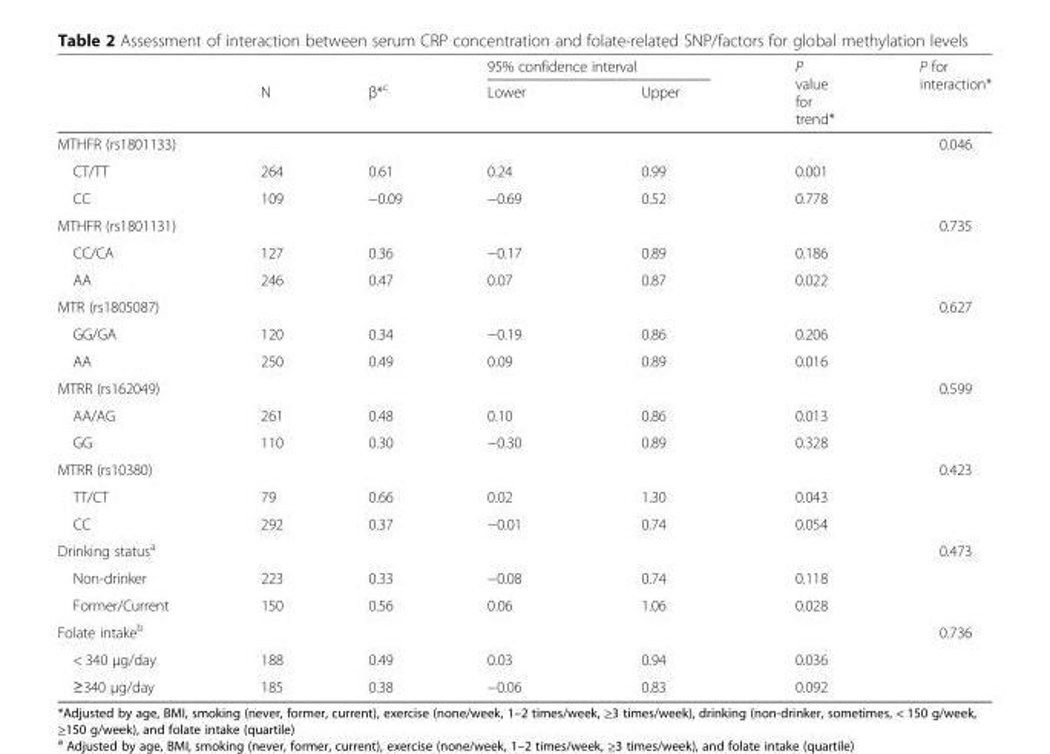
<table><thead><tr><td rowspan="2"></td><td rowspan="2">N</td><td rowspan="2">β*<sup>c</sup></td><td colspan="2">95% confidence interval</td><td rowspan="2">P value for trend*</td><td rowspan="2">P for interaction*</td></tr><tr><td>Lower</td><td>Upper</td></tr></thead><tbody><tr><td>MTHFR (rs1801133)</td><td></td><td></td><td></td><td></td><td></td><td>0.046</td></tr><tr><td>CT/TT</td><td>264</td><td>0.61</td><td>0.24</td><td>0.99</td><td>0.001</td><td></td></tr><tr><td>CC</td><td>109</td><td>−0.09</td><td>−0.69</td><td>0.52</td><td>0.778</td><td></td></tr><tr><td>MTHFR (rs1801131)</td><td></td><td></td><td></td><td></td><td></td><td>0.735</td></tr><tr><td>CC/CA</td><td>127</td><td>0.36</td><td>−0.17</td><td>0.89</td><td>0.186</td><td></td></tr><tr><td>AA</td><td>246</td><td>0.47</td><td>0.07</td><td>0.87</td><td>0.022</td><td></td></tr><tr><td>MTR (rs1805087)</td><td></td><td></td><td></td><td></td><td></td><td>0.627</td></tr><tr><td>GG/GA</td><td>120</td><td>0.34</td><td>−0.19</td><td>0.86</td><td>0.206</td><td></td></tr><tr><td>AA</td><td>250</td><td>0.49</td><td>0.09</td><td>0.89</td><td>0.016</td><td></td></tr><tr><td>MTRR (rs162049)</td><td></td><td></td><td></td><td></td><td></td><td>0.599</td></tr><tr><td>AA/AG</td><td>261</td><td>0.48</td><td>0.10</td><td>0.86</td><td>0.013</td><td></td></tr><tr><td>GG</td><td>110</td><td>0.30</td><td>−0.30</td><td>0.89</td><td>0.328</td><td></td></tr><tr><td>MTRR (rs10380)</td><td></td><td></td><td></td><td></td><td></td><td>0.423</td></tr><tr><td>TT/CT</td><td>79</td><td>0.66</td><td>0.02</td><td>1.30</td><td>0.043</td><td></td></tr><tr><td>CC</td><td>292</td><td>0.37</td><td>−0.01</td><td>0.74</td><td>0.054</td><td></td></tr><tr><td>Drinking status<sup>a</sup></td><td></td><td></td><td></td><td></td><td></td><td>0.473</td></tr><tr><td>Non-drinker</td><td>223</td><td>0.33</td><td>−0.08</td><td>0.74</td><td>0.118</td><td></td></tr><tr><td>Former/Current</td><td>150</td><td>0.56</td><td>0.06</td><td>1.06</td><td>0.028</td><td></td></tr><tr><td>Folate intake<sup>b</sup></td><td></td><td></td><td></td><td></td><td></td><td>0.736</td></tr><tr><td>&lt; 340 μg/day</td><td>188</td><td>0.49</td><td>0.03</td><td>0.94</td><td>0.036</td><td></td></tr><tr><td>≥340 μg/day</td><td>185</td><td>0.38</td><td>−0.06</td><td>0.83</td><td>0.092</td><td></td></tr></tbody></table>